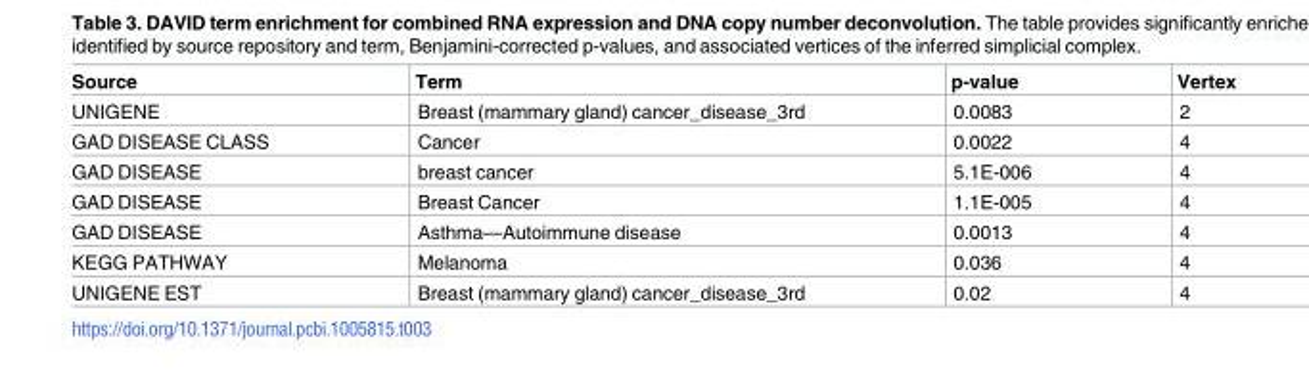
<table><thead><tr><td>Source</td><td>Term</td><td>p-value</td><td>Vertex</td></tr></thead><tbody><tr><td>UNIGENE</td><td>Breast (mammary gland) cancer_disease_3rd</td><td>0.0083</td><td>2</td></tr><tr><td>GAD DISEASE CLASS</td><td>Cancer</td><td>0.0022</td><td>4</td></tr><tr><td>GAD DISEASE</td><td>breast cancer</td><td>5.1E-006</td><td>4</td></tr><tr><td>GAD DISEASE</td><td>Breast Cancer</td><td>1.1E-005</td><td>4</td></tr><tr><td>GAD DISEASE</td><td>Asthma—Autoimmune disease</td><td>0.0013</td><td>4</td></tr><tr><td>KEGG PATHWAY</td><td>Melanoma</td><td>0.036</td><td>4</td></tr><tr><td>UNIGENE EST</td><td>Breast (mammary gland) cancer_disease_3rd</td><td>0.02</td><td>4</td></tr></tbody></table>